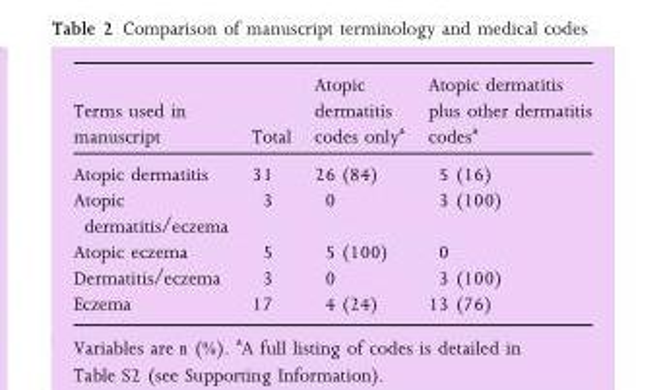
<table><thead><tr><td>Terms used in manuscript</td><td>Total</td><td>Atopic dermatitis codes only<sup>a</sup></td><td>Atopic dermatitis plus other dermatitis codes<sup>a</sup></td></tr></thead><tbody><tr><td>Atopic dermatitis</td><td>31</td><td>26 (84)</td><td>5 (16)</td></tr><tr><td>Atopic dermatitis/eczema</td><td>3</td><td>0</td><td>3 (100)</td></tr><tr><td>Atopic eczema</td><td>5</td><td>5 (100)</td><td>0</td></tr><tr><td>Dermatitis/eczema</td><td>3</td><td>0</td><td>3 (100)</td></tr><tr><td>Eczema</td><td>17</td><td>4 (24)</td><td>13 (76)</td></tr></tbody></table>